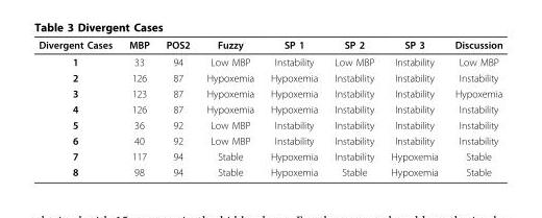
<table><thead><tr><td>Divergent Cases</td><td>MBP</td><td>POS2</td><td>Fuzzy</td><td>SP 1</td><td>SP 2</td><td>SP 3</td><td>Discussion</td></tr></thead><tbody><tr><td>1</td><td>33</td><td>94</td><td>Low MBP</td><td>Instability</td><td>Low MBP</td><td>Instability</td><td>Low MBP</td></tr><tr><td>2</td><td>126</td><td>87</td><td>Hypoxemia</td><td>Hypoxemia</td><td>Instability</td><td>Instability</td><td>Instability</td></tr><tr><td>3</td><td>123</td><td>87</td><td>Hypoxemia</td><td>Hypoxemia</td><td>Instability</td><td>Instability</td><td>Hypoxemia</td></tr><tr><td>4</td><td>126</td><td>87</td><td>Hypoxemia</td><td>Hypoxemia</td><td>Instability</td><td>Instability</td><td>Instability</td></tr><tr><td>5</td><td>36</td><td>92</td><td>Low MBP</td><td>Instability</td><td>Instability</td><td>Instability</td><td>Instability</td></tr><tr><td>6</td><td>40</td><td>92</td><td>Low MBP</td><td>Instability</td><td>Instability</td><td>Instability</td><td>Instability</td></tr><tr><td>7</td><td>117</td><td>94</td><td>Stable</td><td>Hypoxemia</td><td>Instability</td><td>Hypoxemia</td><td>Stable</td></tr><tr><td>8</td><td>98</td><td>94</td><td>Stable</td><td>Hypoxemia</td><td>Stable</td><td>Hypoxemia</td><td>Stable</td></tr></tbody></table>